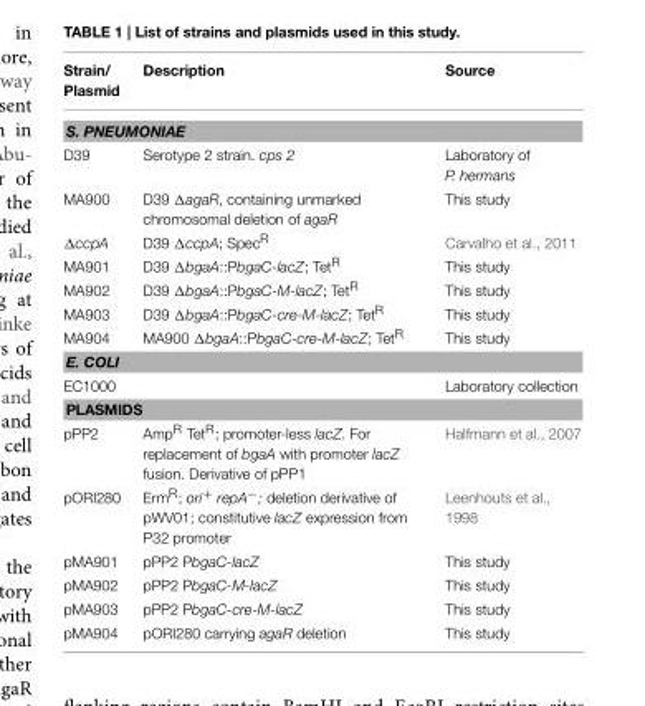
<table><thead><tr><td>Strain/ Plasmid</td><td>Description</td><td>Source</td></tr></thead><tbody><tr><td colspan="3">S. PNEUMONIAE</td></tr><tr><td>D39</td><td>Serotype 2 strain. cps 2</td><td>Laboratory of P. hermans</td></tr><tr><td>MA900</td><td>D39 ΔagaR, containing unmarked chromosomal deletion of agaR</td><td>This study</td></tr><tr><td>ΔccpA</td><td>D39 ΔccpA; Spec<sup>R</sup></td><td>Carvalho et al., 2011</td></tr><tr><td>MA901</td><td>D39 ΔbgaA::PbgaC-lacZ; Tet<sup>R</sup></td><td>This study</td></tr><tr><td>MA902</td><td>D39 ΔbgaA::PbgaC-M-lacZ; Tet<sup>R</sup></td><td>This study</td></tr><tr><td>MA903</td><td>D39 ΔbgaA::PbgaC-cre-M-lacZ; Tet<sup>R</sup></td><td>This study</td></tr><tr><td>MA904</td><td>MA900 ΔbgaA::PbgaC-cre-M-lacZ; Tet<sup>R</sup></td><td>This study</td></tr><tr><td colspan="3">E. COLI</td></tr><tr><td>EC1000</td><td></td><td>Laboratory collection</td></tr><tr><td colspan="3">PLASMIDS</td></tr><tr><td>pPP2</td><td>Amp<sup>R</sup> Tet<sup>R</sup>; promoter-less lacZ. For replacement of bgaA with promoter lacZ fusion. Derivative of pPP1</td><td>Halfmann et al., 2007</td></tr><tr><td>pORI280</td><td>ErmR; ori<sup>+</sup> repA<sup>−</sup>; deletion derivative of pWV01; constitutive lacZ expression from P32 promoter</td><td>Leenhouts et al., 1998</td></tr><tr><td>pMA901</td><td>pPP2 PbgaC-lacZ</td><td>This study</td></tr><tr><td>pMA902</td><td>pPP2 PbgaC-M-lacZ</td><td>This study</td></tr><tr><td>pMA903</td><td>pPP2 PbgaC-cre-M-lacZ</td><td>This study</td></tr><tr><td>pMA904</td><td>pORI280 carrying agaR deletion</td><td>This study</td></tr></tbody></table>